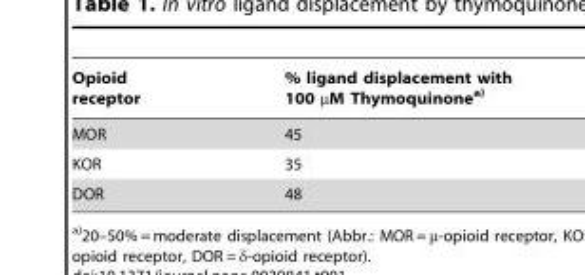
<table><thead><tr><td>Opioid receptor</td><td>% ligand displacement with 100 µM Thymoquinonea)</td></tr></thead><tbody><tr><td>MOR</td><td>45</td></tr><tr><td>KOR</td><td>35</td></tr><tr><td>DOR</td><td>48</td></tr></tbody></table>